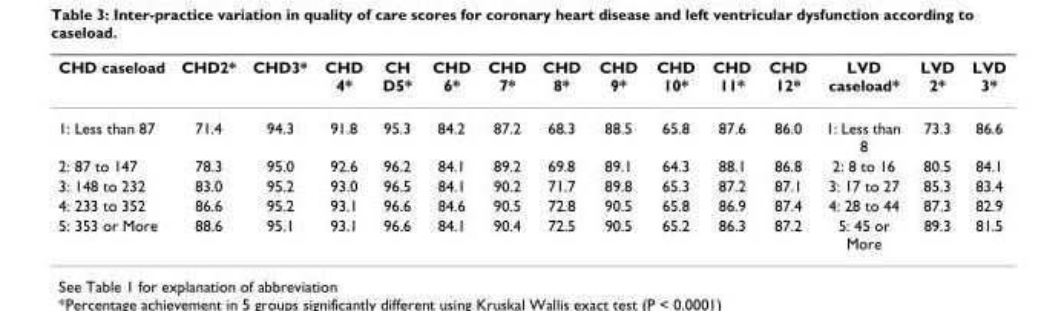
<table><thead><tr><td>CHD caseload</td><td>CHD2*</td><td>CHD3*</td><td>CHD 4*</td><td>CH D5*</td><td>CHD 6*</td><td>CHD 7*</td><td>CHD 8*</td><td>CHD 9*</td><td>CHD 10*</td><td>CHD 11*</td><td>CHD 12*</td><td>LVD caseload*</td><td>LVD 2*</td><td>LVD 3*</td></tr></thead><tbody><tr><td>1: Less than 87</td><td>71.4</td><td>94.3</td><td>91.8</td><td>95.3</td><td>84.2</td><td>87.2</td><td>68.3</td><td>88.5</td><td>65.8</td><td>87.6</td><td>86.0</td><td>1: Less than 8</td><td>73.3</td><td>86.6</td></tr><tr><td>2: 87 to 147</td><td>78.3</td><td>95.0</td><td>92.6</td><td>96.2</td><td>84.1</td><td>89.2</td><td>69.8</td><td>89.1</td><td>64.3</td><td>88.1</td><td>86.8</td><td>2: 8 to 16</td><td>80.5</td><td>84.1</td></tr><tr><td>3: 148 to 232</td><td>83.0</td><td>95.2</td><td>93.0</td><td>96.5</td><td>84.1</td><td>90.2</td><td>71.7</td><td>89.8</td><td>65.3</td><td>87.2</td><td>87.1</td><td>3: 17 to 27</td><td>85.3</td><td>83.4</td></tr><tr><td>4: 233 to 352</td><td>86.6</td><td>95.2</td><td>93.1</td><td>96.6</td><td>84.6</td><td>90.5</td><td>72.8</td><td>90.5</td><td>65.8</td><td>86.9</td><td>87.4</td><td>4: 28 to 44</td><td>87.3</td><td>82.9</td></tr><tr><td>5: 353 or More</td><td>88.6</td><td>95.1</td><td>93.1</td><td>96.6</td><td>84.1</td><td>90.4</td><td>72.5</td><td>90.5</td><td>65.2</td><td>86.3</td><td>87.2</td><td>5: 45 or More</td><td>89.3</td><td>81.5</td></tr></tbody></table>